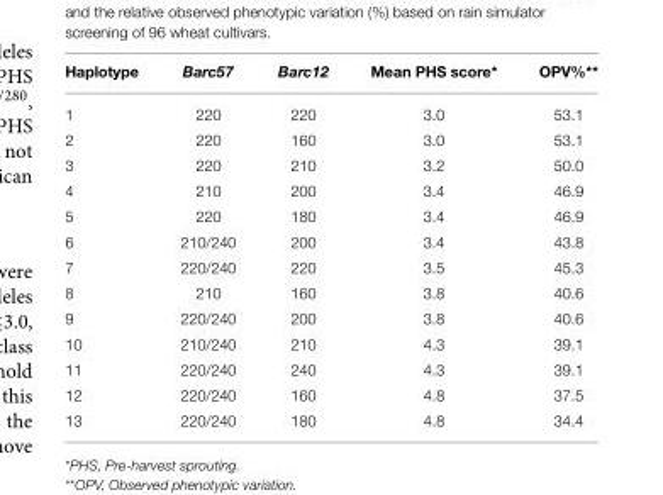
<table><thead><tr><td>Haplotype</td><td>Barc57</td><td>Barc12</td><td>Mean PHS score*</td><td>OPV%**</td></tr></thead><tbody><tr><td>1</td><td>220</td><td>220</td><td>3.0</td><td>53.1</td></tr><tr><td>2</td><td>220</td><td>160</td><td>3.0</td><td>53.1</td></tr><tr><td>3</td><td>220</td><td>210</td><td>3.2</td><td>50.0</td></tr><tr><td>4</td><td>210</td><td>200</td><td>3.4</td><td>46.9</td></tr><tr><td>5</td><td>220</td><td>180</td><td>3.4</td><td>46.9</td></tr><tr><td>6</td><td>210/240</td><td>200</td><td>3.4</td><td>43.8</td></tr><tr><td>7</td><td>220/240</td><td>220</td><td>3.5</td><td>45.3</td></tr><tr><td>8</td><td>210</td><td>160</td><td>3.8</td><td>40.6</td></tr><tr><td>9</td><td>220/240</td><td>200</td><td>3.8</td><td>40.6</td></tr><tr><td>10</td><td>210/240</td><td>210</td><td>4.3</td><td>39.1</td></tr><tr><td>11</td><td>220/240</td><td>240</td><td>4.3</td><td>39.1</td></tr><tr><td>12</td><td>220/240</td><td>160</td><td>4.8</td><td>37.5</td></tr><tr><td>13</td><td>220/240</td><td>180</td><td>4.8</td><td>34.4</td></tr></tbody></table>